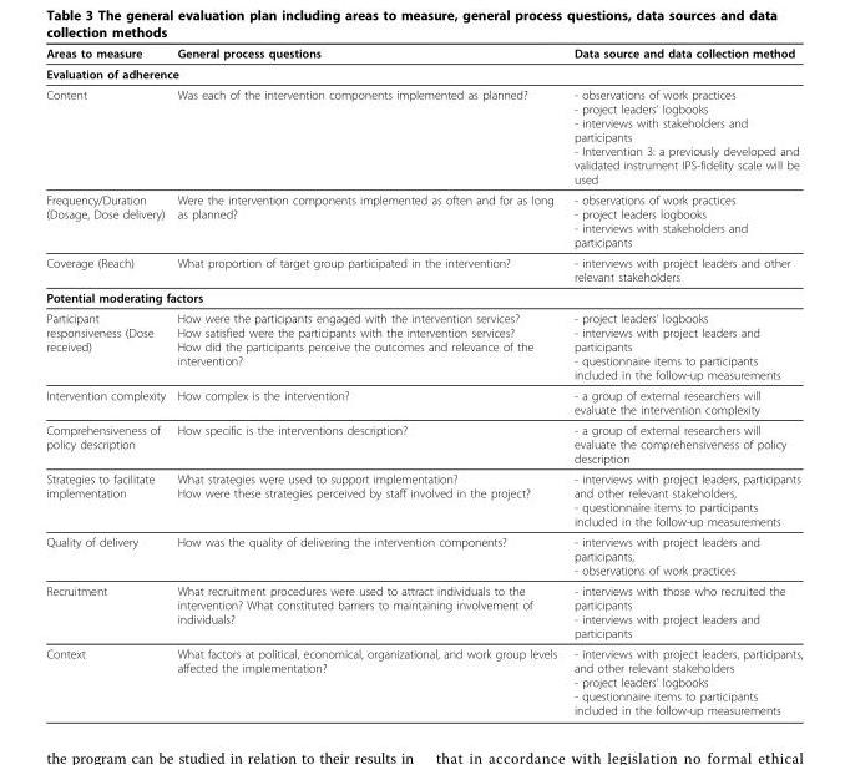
<table><tbody><tr><td>Areas to measure</td><td>General process questions</td><td>Data source and data collection method</td></tr><tr><td colspan="3">Evaluation of adherence</td></tr><tr><td>Content</td><td>Was each of the intervention components implemented as planned?</td><td>- observations of work practices - project leaders’ logbooks - interviews with stakeholders and participants - Intervention 3: a previously developed and validated instrument IPS-fidelity scale will be used</td></tr><tr><td>Frequency/Duration (Dosage, Dose delivery)</td><td>Were the intervention components implemented as often and for as long as planned?</td><td>- observations of work practices - project leaders logbooks - interviews with stakeholders and participants</td></tr><tr><td>Coverage (Reach)</td><td>What proportion of target group participated in the intervention?</td><td>- interviews with project leaders and other relevant stakeholders</td></tr><tr><td colspan="3">Potential moderating factors</td></tr><tr><td>Participant responsiveness (Dose received)</td><td>How were the participants engaged with the intervention services? How satisfied were the participants with the intervention services? How did the participants perceive the outcomes and relevance of the intervention?</td><td>- project leaders’ logbooks - interviews with project leaders and participants - questionnaire items to participants included in the follow-up measurements</td></tr><tr><td>Intervention complexity</td><td>How complex is the intervention?</td><td>- a group of external researchers will evaluate the intervention complexity</td></tr><tr><td>Comprehensiveness of policy description</td><td>How specific is the interventions description?</td><td>- a group of external researchers will evaluate the comprehensiveness of policy description</td></tr><tr><td>Strategies to facilitate implementation</td><td>What strategies were used to support implementation? How were these strategies perceived by staff involved in the project?</td><td>- interviews with project leaders, participants and other relevant stakeholders, - questionnaire items to participants included in the follow-up measurements</td></tr><tr><td>Quality of delivery</td><td>How was the quality of delivering the intervention components?</td><td>- interviews with project leaders and participants, - observations of work practices</td></tr><tr><td>Recruitment</td><td>What recruitment procedures were used to attract individuals to the intervention? What constituted barriers to maintaining involvement of individuals?</td><td>- interviews with those who recruited the participants - interviews with project leaders and participants</td></tr><tr><td>Context</td><td>What factors at political, economical, organizational, and work group levels affected the implementation?</td><td>- interviews with project leaders, participants, and other relevant stakeholders - project leaders’ logbooks - questionnaire items to participants included in the follow-up measurements</td></tr></tbody></table>